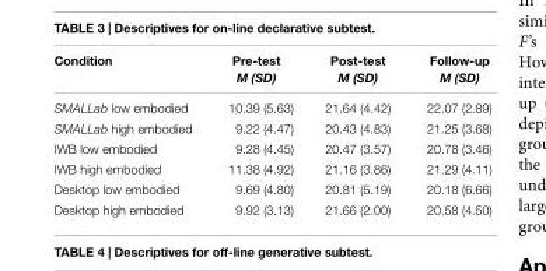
<table><thead><tr><td>Condition</td><td>Pre-test M (SD)</td><td>Post-test M (SD)</td><td>Follow-up M (SD)</td></tr></thead><tbody><tr><td>SMALLab low embodied</td><td>10.39 (5.63)</td><td>21.64 (4.42)</td><td>22.07 (2.89)</td></tr><tr><td>SMALLab high embodied</td><td>9.22 (4.47)</td><td>20.43 (4.83)</td><td>21.25 (3.68)</td></tr><tr><td>IWB low embodied</td><td>9.28 (4.45)</td><td>20.47 (3.57)</td><td>20.78 (3.46)</td></tr><tr><td>IWB high embodied</td><td>11.38 (4.92)</td><td>21.16 (3.86)</td><td>21.29 (4.11)</td></tr><tr><td>Desktop low embodied</td><td>9.69 (4.80)</td><td>20.81 (5.19)</td><td>20.18 (6.66)</td></tr><tr><td>Desktop high embodied</td><td>9.92 (3.13)</td><td>21.66 (2.00)</td><td>20.58 (4.50)</td></tr></tbody></table>